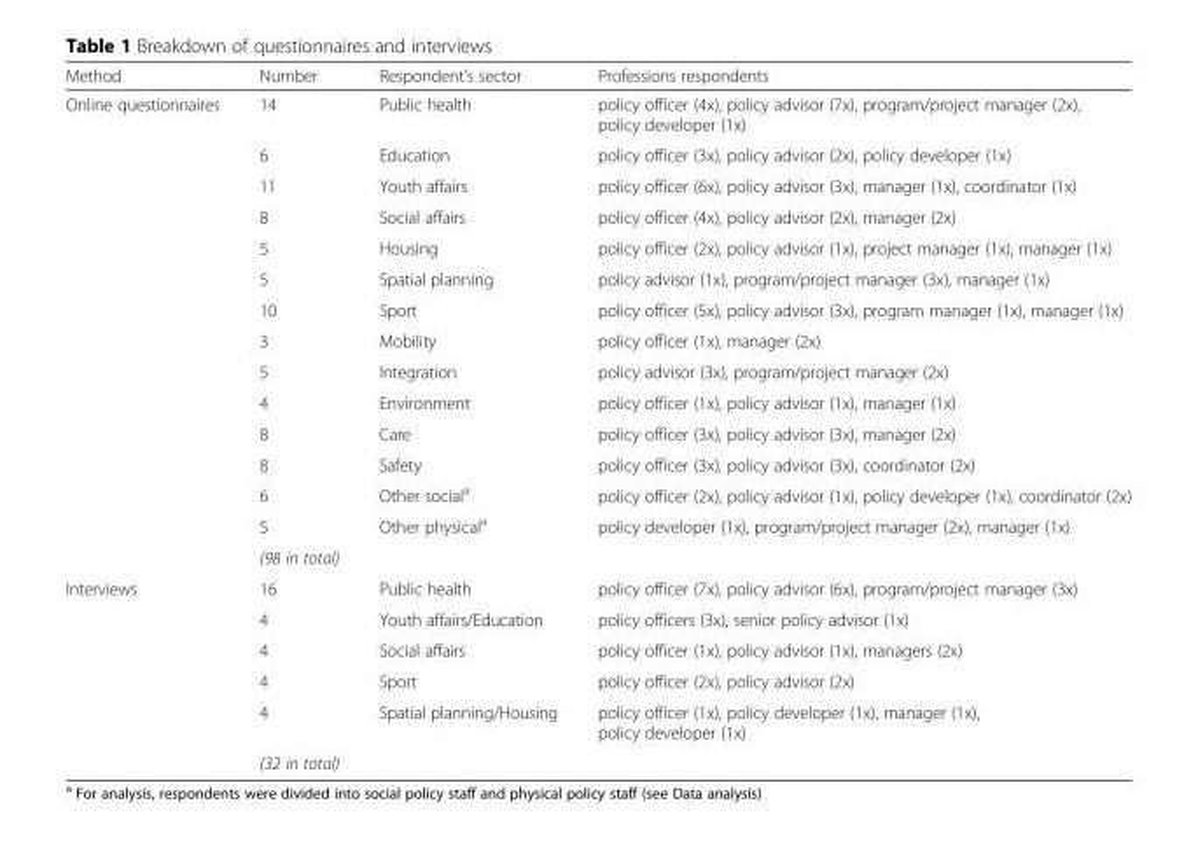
<table><thead><tr><td>Method</td><td>Number</td><td>Respondent’s sector</td><td>Professions respondents</td></tr></thead><tbody><tr><td rowspan="15">Online questionnaires</td><td>14</td><td>Public health</td><td>policy officer (4x), policy advisor (7x), program/project manager (2x), policy developer (1x)</td></tr><tr><td>6</td><td>Education</td><td>policy officer (3x), policy advisor (2x), policy developer (1x)</td></tr><tr><td>11</td><td>Youth affairs</td><td>policy officer (6x), policy advisor (3x), manager (1x), coordinator (1x)</td></tr><tr><td>8</td><td>Social affairs</td><td>policy officer (4x), policy advisor (2x), manager (2x)</td></tr><tr><td>5</td><td>Housing</td><td>policy officer (2x), policy advisor (1x), project manager (1x), manager (1x)</td></tr><tr><td>5</td><td>Spatial planning</td><td>policy advisor (1x), program/project manager (3x), manager (1x)</td></tr><tr><td>10</td><td>Sport</td><td>policy officer (5x), policy advisor (3x), program manager (1x), manager (1x)</td></tr><tr><td>3</td><td>Mobility</td><td>policy officer (1x), manager (2x)</td></tr><tr><td>5</td><td>Integration</td><td>policy advisor (3x), program/project manager (2x)</td></tr><tr><td>4</td><td>Environment</td><td>policy officer (1x), policy advisor (1x), manager (1x)</td></tr><tr><td>8</td><td>Care</td><td>policy officer (3x), policy advisor (3x), manager (2x)</td></tr><tr><td>8</td><td>Safety</td><td>policy officer (3x), policy advisor (3x), coordinator (2x)</td></tr><tr><td>6</td><td>Other social<sup>a</sup></td><td>policy officer (2x), policy advisor (1x), policy developer (1x), coordinator (2x)</td></tr><tr><td>5</td><td>Other physical<sup>a</sup></td><td>policy developer (1x), program/project manager (2x), manager (1x)</td></tr><tr><td>(98 in total)</td><td></td><td></td></tr><tr><td rowspan="6">Interviews</td><td>16</td><td>Public health</td><td>policy officer (7x), policy advisor (6x), program/project manager (3x)</td></tr><tr><td>4</td><td>Youth affairs/Education</td><td>policy officers (3x), senior policy advisor (1x)</td></tr><tr><td>4</td><td>Social affairs</td><td>policy officer (1x), policy advisor (1x), managers (2x)</td></tr><tr><td>4</td><td>Sport</td><td>policy officer (2x), policy advisor (2x)</td></tr><tr><td>4</td><td>Spatial planning/Housing</td><td>policy officer (1x), policy developer (1x), manager (1x), policy developer (1x)</td></tr><tr><td>(32 in total)</td><td></td><td></td></tr></tbody></table>